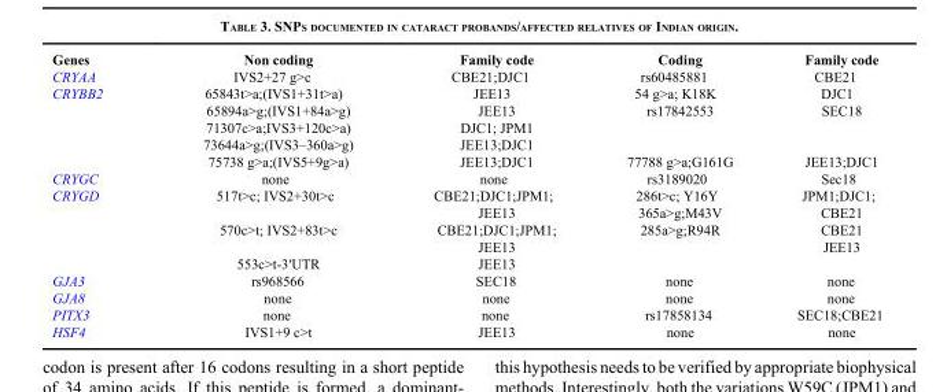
<table><thead><tr><td>Genes</td><td>Non coding</td><td>Family code</td><td>Coding</td><td>Family code</td></tr></thead><tbody><tr><td>CRYAA</td><td>IVS2+27 g&gt;c</td><td>CBE21;DJC1</td><td>rs60485881</td><td>CBE21</td></tr><tr><td rowspan="5">CRYBB2</td><td>65843t&gt;a;(IVS1+31t&gt;a)</td><td>JEE13</td><td>54 g&gt;a; K18K</td><td>DJC1</td></tr><tr><td>65894a&gt;g;(IVS1+84a&gt;g)</td><td>JEE13</td><td>rs17842553</td><td>SEC18</td></tr><tr><td>71307c&gt;a;IVS3+120c&gt;a)</td><td>DJC1; JPM1</td><td></td><td></td></tr><tr><td>73644a&gt;g;(IVS3–360a&gt;g)</td><td>JEE13;DJC1</td><td></td><td></td></tr><tr><td>75738 g&gt;a;(IVS5+9g&gt;a)</td><td>JEE13;DJC1</td><td>77788 g&gt;a;G161G</td><td>JEE13;DJC1</td></tr><tr><td>CRYGC</td><td>none</td><td>none</td><td>rs3189020</td><td>Sec18</td></tr><tr><td rowspan="5">CRYGD</td><td>517t&gt;c; IVS2+30t&gt;c</td><td>CBE21;DJC1;JPM1;</td><td>286t&gt;c; Y16Y</td><td>JPM1;DJC1;</td></tr><tr><td></td><td>JEE13</td><td>365a&gt;g;M43V</td><td>CBE21</td></tr><tr><td>570c&gt;t; IVS2+83t&gt;c</td><td>CBE21;DJC1;JPM1;</td><td>285a&gt;g;R94R</td><td>CBE21</td></tr><tr><td></td><td>JEE13</td><td></td><td>JEE13</td></tr><tr><td>553c&gt;t-3′UTR</td><td>JEE13</td><td></td><td></td></tr><tr><td>GJA3</td><td>rs968566</td><td>SEC18</td><td>none</td><td>none</td></tr><tr><td>GJA8</td><td>none</td><td>none</td><td>none</td><td>none</td></tr><tr><td>PITX3</td><td>none</td><td>none</td><td>rs17858134</td><td>SEC18;CBE21</td></tr><tr><td>HSF4</td><td>IVS1+9 c&gt;t</td><td>JEE13</td><td>none</td><td>none</td></tr></tbody></table>